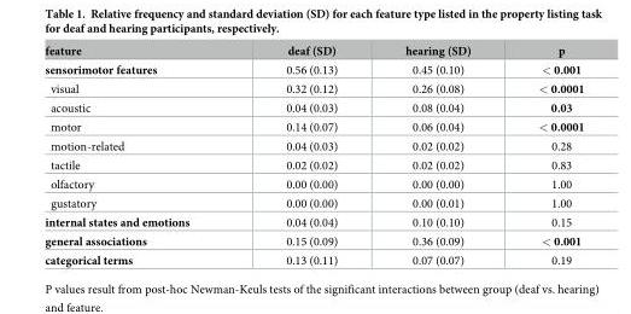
<table><thead><tr><td>feature</td><td>deaf (SD)</td><td>hearing (SD)</td><td>p</td></tr></thead><tbody><tr><td>sensorimotor features</td><td>0.56 (0.13)</td><td>0.45 (0.10)</td><td>&lt; 0.001</td></tr><tr><td>visual</td><td>0.32 (0.12)</td><td>0.26 (0.08)</td><td>&lt; 0.0001</td></tr><tr><td>acoustic</td><td>0.04 (0.03)</td><td>0.08 (0.04)</td><td>0.03</td></tr><tr><td>motor</td><td>0.14 (0.07)</td><td>0.06 (0.04)</td><td>&lt; 0.0001</td></tr><tr><td>motion-related</td><td>0.04 (0.03)</td><td>0.02 (0.02)</td><td>0.28</td></tr><tr><td>tactile</td><td>0.02 (0.02)</td><td>0.02 (0.02)</td><td>0.83</td></tr><tr><td>olfactory</td><td>0.00 (0.00)</td><td>0.00 (0.00)</td><td>1.00</td></tr><tr><td>gustatory</td><td>0.00 (0.00)</td><td>0.00 (0.01)</td><td>1.00</td></tr><tr><td>internal states and emotions</td><td>0.04 (0.04)</td><td>0.10 (0.10)</td><td>0.15</td></tr><tr><td>general associations</td><td>0.15 (0.09)</td><td>0.36 (0.09)</td><td>&lt; 0.001</td></tr><tr><td>categorical terms</td><td>0.13 (0.11)</td><td>0.07 (0.07)</td><td>0.19</td></tr></tbody></table>